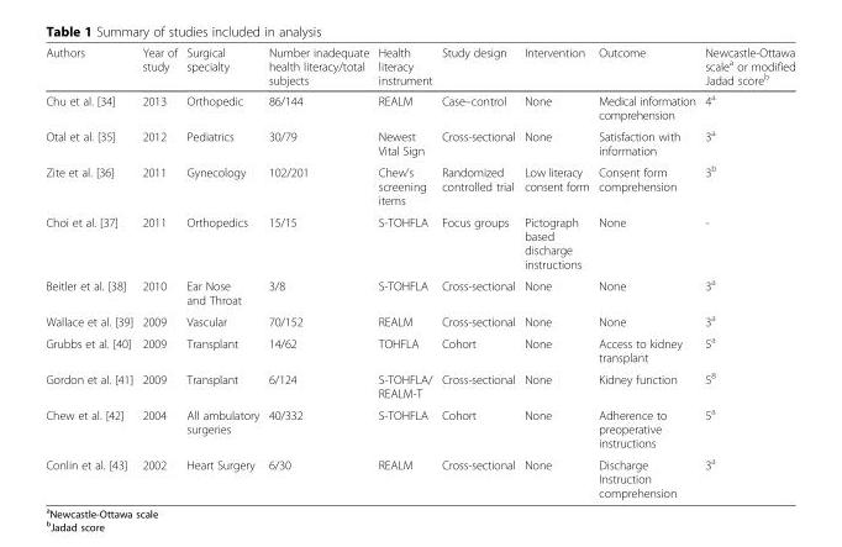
<table><thead><tr><td>Authors</td><td>Year of study</td><td>Surgical specialty</td><td>Number inadequate health literacy/total subjects</td><td>Health literacy instrument</td><td>Study design</td><td>Intervention</td><td>Outcome</td><td>Newcastle-Ottawa scale<sup>a</sup> or modified Jadad score<sup>b</sup></td></tr></thead><tbody><tr><td>Chu et al. [34]</td><td>2013</td><td>Orthopedic</td><td>86/144</td><td>REALM</td><td>Case–control</td><td>None</td><td>Medical information comprehension</td><td>4<sup>a</sup></td></tr><tr><td>Otal et al. [35]</td><td>2012</td><td>Pediatrics</td><td>30/79</td><td>Newest Vital Sign</td><td>Cross-sectional</td><td>None</td><td>Satisfaction with information</td><td>3<sup>a</sup></td></tr><tr><td>Zite et al. [36]</td><td>2011</td><td>Gynecology</td><td>102/201</td><td>Chew’s screening items</td><td>Randomized controlled trial</td><td>Low literacy consent form</td><td>Consent form comprehension</td><td>3<sup>b</sup></td></tr><tr><td>Choi et al. [37]</td><td>2011</td><td>Orthopedics</td><td>15/15</td><td>S-TOHFLA</td><td>Focus groups</td><td>Pictograph based discharge instructions</td><td>None</td><td>-</td></tr><tr><td>Beitler et al. [38]</td><td>2010</td><td>Ear Nose and Throat</td><td>3/8</td><td>S-TOHFLA</td><td>Cross-sectional</td><td>None</td><td>None</td><td>3<sup>a</sup></td></tr><tr><td>Wallace et al. [39]</td><td>2009</td><td>Vascular</td><td>70/152</td><td>REALM</td><td>Cross-sectional</td><td>None</td><td>None</td><td>3<sup>a</sup></td></tr><tr><td>Grubbs et al. [40]</td><td>2009</td><td>Transplant</td><td>14/62</td><td>TOHFLA</td><td>Cohort</td><td>None</td><td>Access to kidney transplant</td><td>5<sup>a</sup></td></tr><tr><td>Gordon et al. [41]</td><td>2009</td><td>Transplant</td><td>6/124</td><td>S-TOHFLA/ REALM-T</td><td>Cross-sectional</td><td>None</td><td>Kidney function</td><td>5<sup>8</sup></td></tr><tr><td>Chew et al. [42]</td><td>2004</td><td>All ambulatory surgeries</td><td>40/332</td><td>S-TOHFLA</td><td>Cohort</td><td>None</td><td>Adherence to preoperative instructions</td><td>5<sup>a</sup></td></tr><tr><td>Conlin et al. [43]</td><td>2002</td><td>Heart Surgery</td><td>6/30</td><td>REALM</td><td>Cross-sectional</td><td>None</td><td>Discharge Instruction comprehension</td><td>3<sup>a</sup></td></tr></tbody></table>